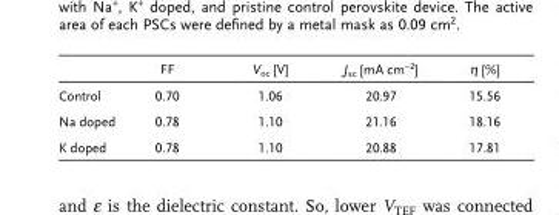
<table><thead><tr><td></td><td>FF</td><td>V<sub>oc</sub> [V]</td><td>J<sub>sc</sub> [mA cm<sup>−2</sup>]</td><td>η [%]</td></tr></thead><tbody><tr><td>Control</td><td>0.70</td><td>1.06</td><td>20.97</td><td>15.56</td></tr><tr><td>Na doped</td><td>0.78</td><td>1.10</td><td>21.16</td><td>18.16</td></tr><tr><td>K doped</td><td>0.78</td><td>1.10</td><td>20.88</td><td>17.81</td></tr></tbody></table>